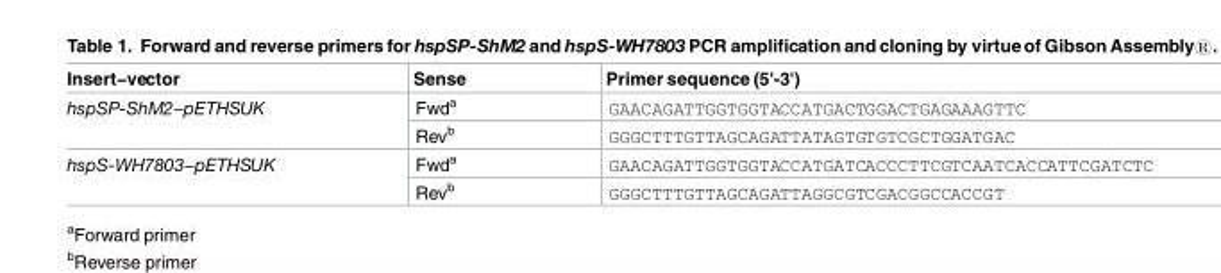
<table><thead><tr><td>Insert−vector</td><td>Sense</td><td>Primer sequence (5&#x27;-3&#x27;)</td></tr></thead><tbody><tr><td rowspan="2">hspSP-ShM2−pETHSUK</td><td>Fwd<sup>a</sup></td><td>GAACAGATTGGTGGTACCATGACTGGACTGAGAAAGTTC</td></tr><tr><td>Rev<sup>b</sup></td><td>GGGCTTTGTTAGCAGATTATAGTGTGTCGCTGGATGAC</td></tr><tr><td rowspan="2">hspS-WH7803−pETHSUK</td><td>Fwd<sup>a</sup></td><td>GAACAGATTGGTGGTACCATGATCACCCTTCGTCAATCACCATTCGATCTC</td></tr><tr><td>Rev<sup>b</sup></td><td>GGGCTTTGTTAGCAGATTAGGCGTCGACGGCCACCGT</td></tr></tbody></table>